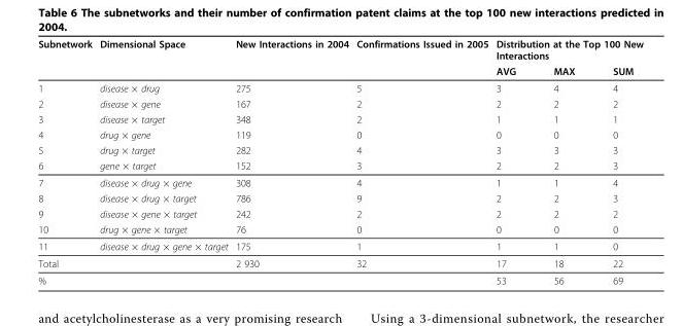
<table><thead><tr><td rowspan="2">Subnetwork</td><td rowspan="2">Dimensional Space</td><td rowspan="2">New Interactions in 2004</td><td rowspan="2">Confirmations Issued in 2005</td><td colspan="3">Distribution at the Top 100 New Interactions</td></tr><tr><td>AVG</td><td>MAX</td><td>SUM</td></tr></thead><tbody><tr><td>1</td><td>disease × drug</td><td>275</td><td>5</td><td>3</td><td>4</td><td>4</td></tr><tr><td>2</td><td>disease × gene</td><td>167</td><td>2</td><td>2</td><td>2</td><td>2</td></tr><tr><td>3</td><td>disease × target</td><td>348</td><td>2</td><td>1</td><td>1</td><td>1</td></tr><tr><td>4</td><td>drug × gene</td><td>119</td><td>0</td><td>0</td><td>0</td><td>0</td></tr><tr><td>5</td><td>drug × target</td><td>282</td><td>4</td><td>3</td><td>3</td><td>3</td></tr><tr><td>6</td><td>gene × target</td><td>152</td><td>3</td><td>2</td><td>2</td><td>3</td></tr><tr><td>7</td><td>disease × drug × gene</td><td>308</td><td>4</td><td>1</td><td>1</td><td>4</td></tr><tr><td>8</td><td>disease × drug × target</td><td>786</td><td>9</td><td>2</td><td>2</td><td>3</td></tr><tr><td>9</td><td>disease × gene × target</td><td>242</td><td>2</td><td>2</td><td>2</td><td>2</td></tr><tr><td>10</td><td>drug × gene × target</td><td>76</td><td>0</td><td>0</td><td>0</td><td>0</td></tr><tr><td>11</td><td>disease × drug × gene × target</td><td>175</td><td>1</td><td>1</td><td>1</td><td>0</td></tr><tr><td>Total</td><td></td><td>2 930</td><td>32</td><td>17</td><td>18</td><td>22</td></tr><tr><td>%</td><td></td><td></td><td></td><td>53</td><td>56</td><td>69</td></tr></tbody></table>